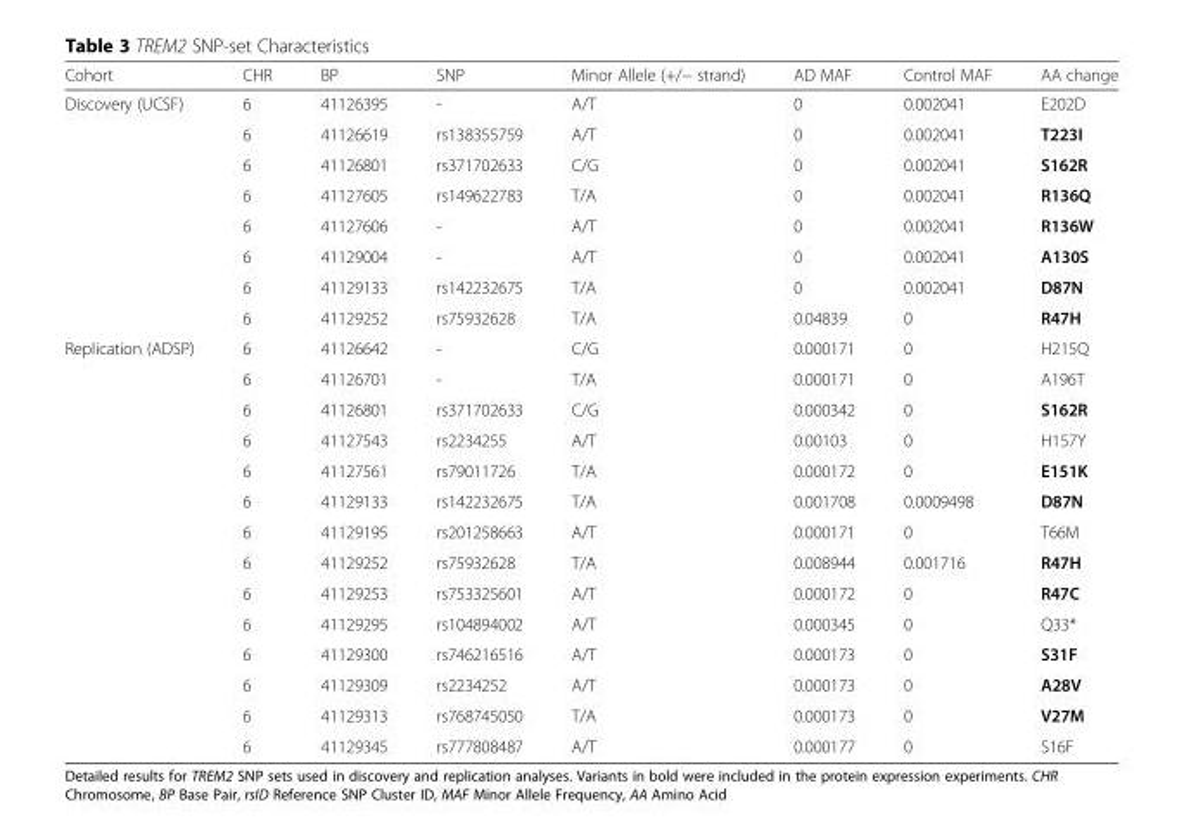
<table><thead><tr><td>Cohort</td><td>CHR</td><td>BP</td><td>SNP</td><td>Minor Allele (+/− strand)</td><td>AD MAF</td><td>Control MAF</td><td>AA change</td></tr></thead><tbody><tr><td rowspan="8">Discovery (UCSF)</td><td>6</td><td>41126395</td><td>-</td><td>A/T</td><td>0</td><td>0.002041</td><td>E202D</td></tr><tr><td>6</td><td>41126619</td><td>rs138355759</td><td>A/T</td><td>0</td><td>0.002041</td><td>T223I</td></tr><tr><td>6</td><td>41126801</td><td>rs371702633</td><td>C/G</td><td>0</td><td>0.002041</td><td>S162R</td></tr><tr><td>6</td><td>41127605</td><td>rs149622783</td><td>T/A</td><td>0</td><td>0.002041</td><td>R136Q</td></tr><tr><td>6</td><td>41127606</td><td>-</td><td>A/T</td><td>0</td><td>0.002041</td><td>R136W</td></tr><tr><td>6</td><td>41129004</td><td>-</td><td>A/T</td><td>0</td><td>0.002041</td><td>A130S</td></tr><tr><td>6</td><td>41129133</td><td>rs142232675</td><td>T/A</td><td>0</td><td>0.002041</td><td>D87N</td></tr><tr><td>6</td><td>41129252</td><td>rs75932628</td><td>T/A</td><td>0.04839</td><td>0</td><td>R47H</td></tr><tr><td rowspan="14">Replication (ADSP)</td><td>6</td><td>41126642</td><td>-</td><td>C/G</td><td>0.000171</td><td>0</td><td>H215Q</td></tr><tr><td>6</td><td>41126701</td><td>-</td><td>T/A</td><td>0.000171</td><td>0</td><td>A196T</td></tr><tr><td>6</td><td>41126801</td><td>rs371702633</td><td>C/G</td><td>0.000342</td><td>0</td><td>S162R</td></tr><tr><td>6</td><td>41127543</td><td>rs2234255</td><td>A/T</td><td>0.00103</td><td>0</td><td>H157Y</td></tr><tr><td>6</td><td>41127561</td><td>rs79011726</td><td>T/A</td><td>0.000172</td><td>0</td><td>E151K</td></tr><tr><td>6</td><td>41129133</td><td>rs142232675</td><td>T/A</td><td>0.001708</td><td>0.0009498</td><td>D87N</td></tr><tr><td>6</td><td>41129195</td><td>rs201258663</td><td>A/T</td><td>0.000171</td><td>0</td><td>T66M</td></tr><tr><td>6</td><td>41129252</td><td>rs75932628</td><td>T/A</td><td>0.008944</td><td>0.001716</td><td>R47H</td></tr><tr><td>6</td><td>41129253</td><td>rs753325601</td><td>A/T</td><td>0.000172</td><td>0</td><td>R47C</td></tr><tr><td>6</td><td>41129295</td><td>rs104894002</td><td>A/T</td><td>0.000345</td><td>0</td><td>Q33*</td></tr><tr><td>6</td><td>41129300</td><td>rs746216516</td><td>A/T</td><td>0.000173</td><td>0</td><td>S31F</td></tr><tr><td>6</td><td>41129309</td><td>rs2234252</td><td>A/T</td><td>0.000173</td><td>0</td><td>A28V</td></tr><tr><td>6</td><td>41129313</td><td>rs768745050</td><td>T/A</td><td>0.000173</td><td>0</td><td>V27M</td></tr><tr><td>6</td><td>41129345</td><td>rs777808487</td><td>A/T</td><td>0.000177</td><td>0</td><td>S16F</td></tr></tbody></table>